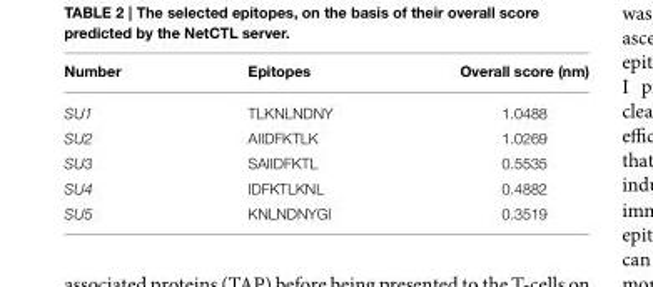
<table><thead><tr><td>Number</td><td>Epitopes</td><td>Overall score (nm)</td></tr></thead><tbody><tr><td>SU1</td><td>TLKNLNDNY</td><td>1.0488</td></tr><tr><td>SU2</td><td>AIIDFKTLK</td><td>1.0269</td></tr><tr><td>SU3</td><td>SAIIDFKTL</td><td>0.5535</td></tr><tr><td>SU4</td><td>IDFKTLKNL</td><td>0.4882</td></tr><tr><td>SU5</td><td>KNLNDNYGI</td><td>0.3519</td></tr></tbody></table>